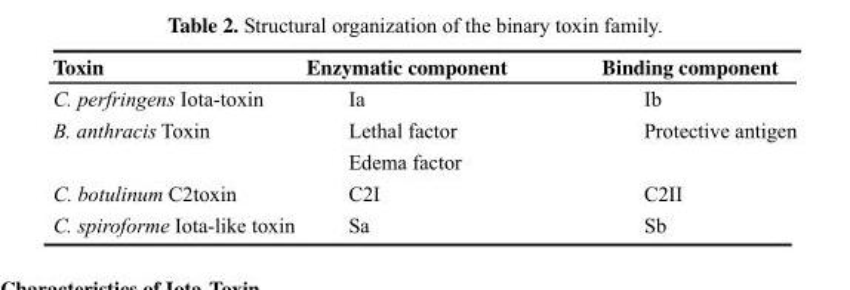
<table><thead><tr><td>Toxin</td><td>Enzymatic component</td><td>Binding component</td></tr></thead><tbody><tr><td>C. perfringens Iota-toxin</td><td>Ia</td><td>Ib</td></tr><tr><td rowspan="2">B. anthracis Toxin</td><td>Lethal factor</td><td>Protective antigen</td></tr><tr><td>Edema factor</td><td></td></tr><tr><td>C. botulinum C2toxin</td><td>C2I</td><td>C2II</td></tr><tr><td>C. spiroforme Iota-like toxin</td><td>Sa</td><td>Sb</td></tr></tbody></table>